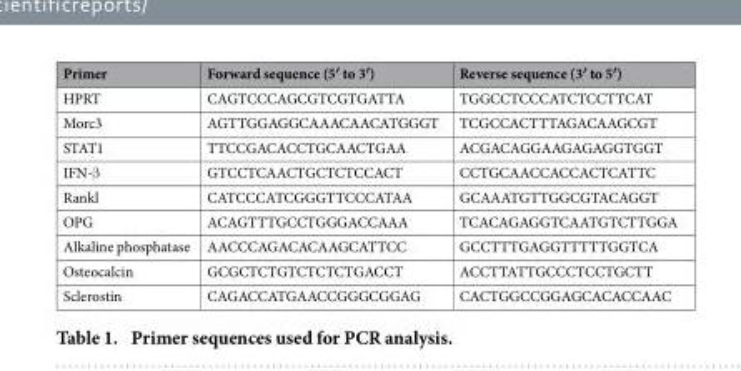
<table><thead><tr><td>Primer</td><td>Forward sequence (5′ to 3′)</td><td>Reverse sequence (3′ to 5′)</td></tr></thead><tbody><tr><td>HPRT</td><td>CAGTCCCAGCGTCGTGATTA</td><td>TGGCCTCCCATCTCCTTCAT</td></tr><tr><td>Morc3</td><td>AGTTGGAGGCAAACAACATGGGT</td><td>TCGCCACTTTAGACAAGCGT</td></tr><tr><td>STAT1</td><td>TTCCGACACCTGCAACTGAA</td><td>ACGACAGGAAGAGAGGTGGT</td></tr><tr><td>IFN-β</td><td>GTCCTCAACTGCTCTCCACT</td><td>CCTGCAACCACCACTCATTC</td></tr><tr><td>Rankl</td><td>CATCCCATCGGGTTCCCATAA</td><td>GCAAATGTTGGCGTACAGGT</td></tr><tr><td>OPG</td><td>ACAGTTTGCCTGGGACCAAA</td><td>TCACAGAGGTCAATGTCTTGGA</td></tr><tr><td>Alkaline phosphatase</td><td>AACCCAGACACAAGCATTCC</td><td>GCCTTTGAGGTTTTTGGTCA</td></tr><tr><td>Osteocalcin</td><td>GCGCTCTGTCTCTCTGACCT</td><td>ACCTTATTGCCCTCCTGCTT</td></tr><tr><td>Sclerostin</td><td>CAGACCATGAACCGGGCGGAG</td><td>CACTGGCCGGAGCACACCAAC</td></tr></tbody></table>